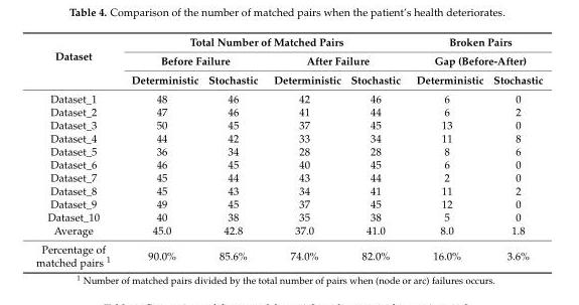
<table><thead><tr><td rowspan="3">Dataset</td><td colspan="4">Total Number of Matched Pairs</td><td rowspan="2" colspan="2">Broken Pairs Gap (Before-After)</td></tr><tr><td colspan="2">Before Failure</td><td colspan="2">After Failure</td></tr><tr><td>Deterministic</td><td>Stochastic</td><td>Deterministic</td><td>Stochastic</td><td>Deterministic</td><td>Stochastic</td></tr></thead><tbody><tr><td>Dataset_1</td><td>48</td><td>46</td><td>42</td><td>46</td><td>6</td><td>0</td></tr><tr><td>Dataset_2</td><td>47</td><td>46</td><td>41</td><td>44</td><td>6</td><td>2</td></tr><tr><td>Dataset_3</td><td>50</td><td>45</td><td>37</td><td>45</td><td>13</td><td>0</td></tr><tr><td>Dataset_4</td><td>44</td><td>42</td><td>33</td><td>34</td><td>11</td><td>8</td></tr><tr><td>Dataset_5</td><td>36</td><td>34</td><td>28</td><td>28</td><td>8</td><td>6</td></tr><tr><td>Dataset_6</td><td>46</td><td>45</td><td>40</td><td>45</td><td>6</td><td>0</td></tr><tr><td>Dataset_7</td><td>45</td><td>44</td><td>43</td><td>44</td><td>2</td><td>0</td></tr><tr><td>Dataset_8</td><td>45</td><td>43</td><td>34</td><td>41</td><td>11</td><td>2</td></tr><tr><td>Dataset_9</td><td>49</td><td>45</td><td>37</td><td>45</td><td>12</td><td>0</td></tr><tr><td>Dataset_10</td><td>40</td><td>38</td><td>35</td><td>38</td><td>5</td><td>0</td></tr><tr><td>Average</td><td>45.0</td><td>42.8</td><td>37.0</td><td>41.0</td><td>8.0</td><td>1.8</td></tr><tr><td>Percentage of matched pairs <sup>1</sup></td><td>90.0%</td><td>85.6%</td><td>74.0%</td><td>82.0%</td><td>16.0%</td><td>3.6%</td></tr></tbody></table>